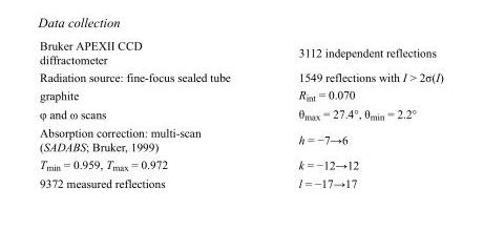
<table><tbody><tr><td>Bruker APEXII CCD diffractometer</td><td>3112 independent reflections</td></tr><tr><td>Radiation source: fine-focus sealed tube</td><td>1549 reflections with I &gt; 2σ(I)</td></tr><tr><td>graphite</td><td>R<sub>int</sub> = 0.070</td></tr><tr><td>φ and ω scans</td><td>θ<sub>max</sub> = 27.4°, θ<sub>min</sub> = 2.2°</td></tr><tr><td>Absorption correction: multi-scan (SADABS; Bruker, 1999)</td><td>h = −7→6</td></tr><tr><td>T<sub>min</sub> = 0.959, T<sub>max</sub> = 0.972</td><td>k = −12→12</td></tr><tr><td>9372 measured reflections</td><td>l = −17→17</td></tr></tbody></table>